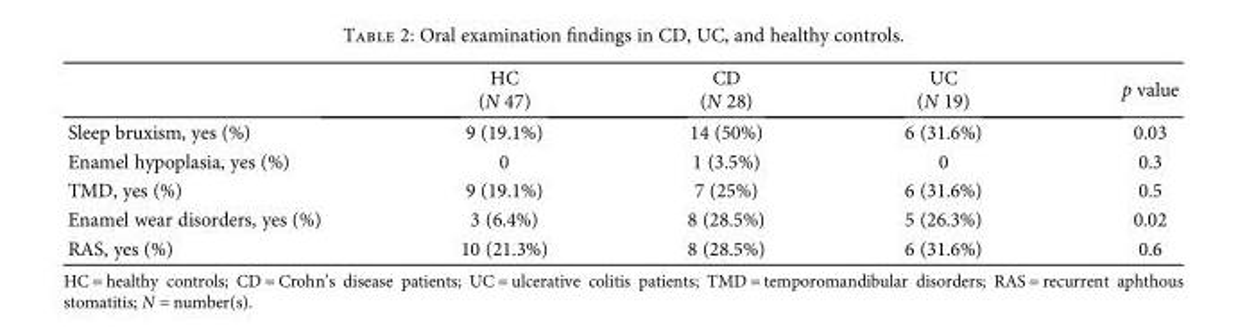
<table><thead><tr><td></td><td>HC (N 47)</td><td>CD (N 28)</td><td>UC (N 19)</td><td>p value</td></tr></thead><tbody><tr><td>Sleep bruxism, yes (%)</td><td>9 (19.1%)</td><td>14 (50%)</td><td>6 (31.6%)</td><td>0.03</td></tr><tr><td>Enamel hypoplasia, yes (%)</td><td>0</td><td>1 (3.5%)</td><td>0</td><td>0.3</td></tr><tr><td>TMD, yes (%)</td><td>9 (19.1%)</td><td>7 (25%)</td><td>6 (31.6%)</td><td>0.5</td></tr><tr><td>Enamel wear disorders, yes (%)</td><td>3 (6.4%)</td><td>8 (28.5%)</td><td>5 (26.3%)</td><td>0.02</td></tr><tr><td>RAS, yes (%)</td><td>10 (21.3%)</td><td>8 (28.5%)</td><td>6 (31.6%)</td><td>0.6</td></tr></tbody></table>